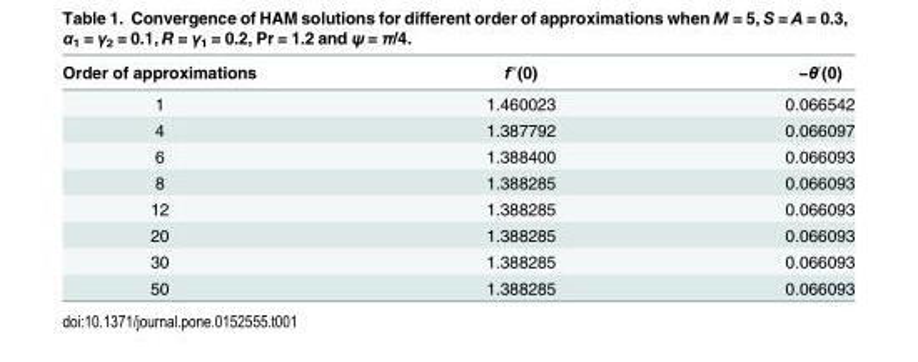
<table><thead><tr><td>Order of approximations</td><td>f″(0)</td><td>−θ′(0)</td></tr></thead><tbody><tr><td>1</td><td>1.460023</td><td>0.066542</td></tr><tr><td>4</td><td>1.387792</td><td>0.066097</td></tr><tr><td>6</td><td>1.388400</td><td>0.066093</td></tr><tr><td>8</td><td>1.388285</td><td>0.066093</td></tr><tr><td>12</td><td>1.388285</td><td>0.066093</td></tr><tr><td>20</td><td>1.388285</td><td>0.066093</td></tr><tr><td>30</td><td>1.388285</td><td>0.066093</td></tr><tr><td>50</td><td>1.388285</td><td>0.066093</td></tr></tbody></table>